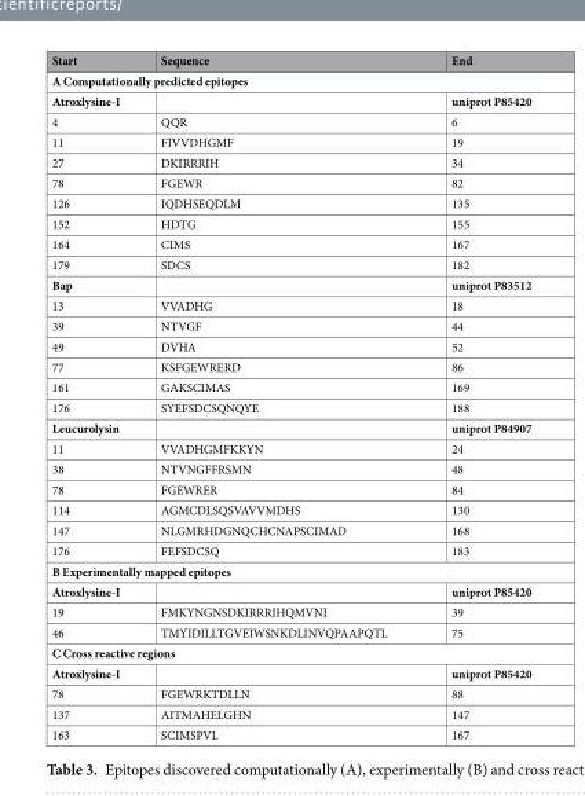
<table><thead><tr><td>Start</td><td>Sequence</td><td>End</td></tr></thead><tbody><tr><td colspan="3">A Computationally predicted epitopes</td></tr><tr><td>Atroxlysine-I</td><td></td><td>uniprot P85420</td></tr><tr><td>4</td><td>QQR</td><td>6</td></tr><tr><td>11</td><td>FIVVDHGMF</td><td>19</td></tr><tr><td>27</td><td>DKIRRRIH</td><td>34</td></tr><tr><td>78</td><td>FGEWR</td><td>82</td></tr><tr><td>126</td><td>IQDHSEQDLM</td><td>135</td></tr><tr><td>152</td><td>HDTG</td><td>155</td></tr><tr><td>164</td><td>CIMS</td><td>167</td></tr><tr><td>179</td><td>SDCS</td><td>182</td></tr><tr><td>Bap</td><td></td><td>uniprot P83512</td></tr><tr><td>13</td><td>VVADHG</td><td>18</td></tr><tr><td>39</td><td>NTVGF</td><td>44</td></tr><tr><td>49</td><td>DVHA</td><td>52</td></tr><tr><td>77</td><td>KSFGEWRERD</td><td>86</td></tr><tr><td>161</td><td>GAKSCIMAS</td><td>169</td></tr><tr><td>176</td><td>SYEFSDCSQNQYE</td><td>188</td></tr><tr><td>Leucurolysin</td><td></td><td>uniprot P84907</td></tr><tr><td>11</td><td>VVADHGMFKKYN</td><td>24</td></tr><tr><td>38</td><td>NTVNGFFRSMN</td><td>48</td></tr><tr><td>78</td><td>FGEWRER</td><td>84</td></tr><tr><td>114</td><td>AGMCDLSQSVAVVMDHS</td><td>130</td></tr><tr><td>147</td><td>NLGMRHDGNQCHCNAPSCIMAD</td><td>168</td></tr><tr><td>176</td><td>FEFSDCSQ</td><td>183</td></tr><tr><td colspan="3">B Experimentally mapped epitopes</td></tr><tr><td>Atroxlysine-I</td><td></td><td>uniprot P85420</td></tr><tr><td>19</td><td>FMKYNGNSDKIRRRIHQMVNI</td><td>39</td></tr><tr><td>46</td><td>TMYIDILLTGVEIWSNKDLINVQPAAPQTL</td><td>75</td></tr><tr><td colspan="3">C Cross reactive regions</td></tr><tr><td>Atroxlysine-I</td><td></td><td>uniprot P85420</td></tr><tr><td>78</td><td>FGEWRKTDLLN</td><td>88</td></tr><tr><td>137</td><td>AITMAHELGHN</td><td>147</td></tr><tr><td>163</td><td>SCIMSPVL</td><td>167</td></tr></tbody></table>